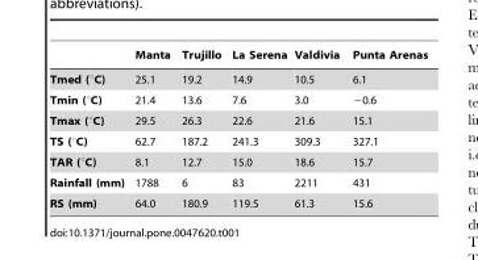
<table><thead><tr><td></td><td>Manta</td><td>Trujillo</td><td>La Serena</td><td>Valdivia</td><td>Punta Arenas</td></tr></thead><tbody><tr><td>Tmed (°C)</td><td>25.1</td><td>19.2</td><td>14.9</td><td>10.5</td><td>6.1</td></tr><tr><td>Tmin (°C)</td><td>21.4</td><td>13.6</td><td>7.6</td><td>3.0</td><td>−0.6</td></tr><tr><td>Tmax (°C)</td><td>29.5</td><td>26.3</td><td>22.6</td><td>21.6</td><td>15.1</td></tr><tr><td>TS (°C)</td><td>62.7</td><td>187.2</td><td>241.3</td><td>309.3</td><td>327.1</td></tr><tr><td>TAR (°C)</td><td>8.1</td><td>12.7</td><td>15.0</td><td>18.6</td><td>15.7</td></tr><tr><td>Rainfall (mm)</td><td>1788</td><td>6</td><td>83</td><td>2211</td><td>431</td></tr><tr><td>RS (mm)</td><td>64.0</td><td>180.9</td><td>119.5</td><td>61.3</td><td>15.6</td></tr></tbody></table>